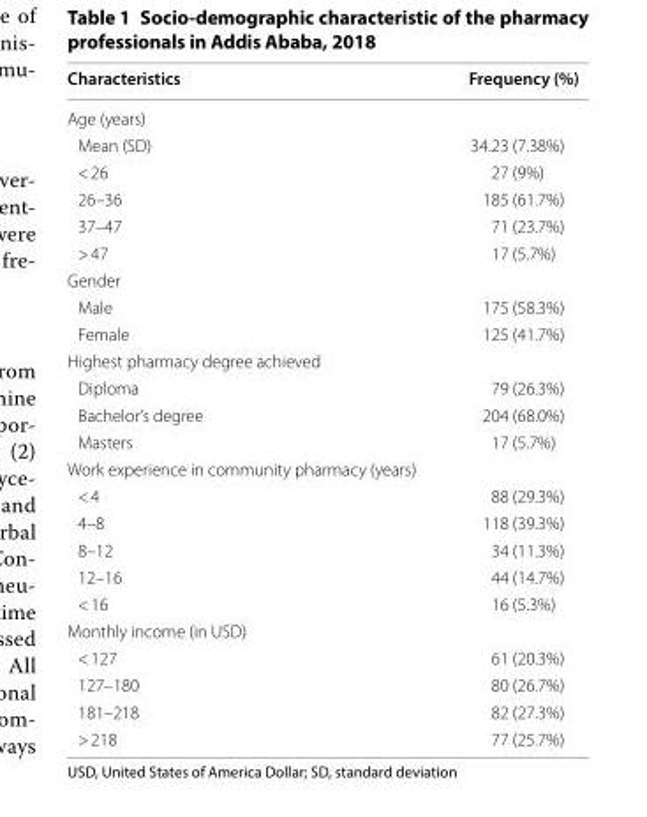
<table><thead><tr><td>Characteristics</td><td>Frequency (%)</td></tr></thead><tbody><tr><td colspan="2">Age (years)</td></tr><tr><td>Mean (SD)</td><td>34.23 (7.38%)</td></tr><tr><td>&lt; 26</td><td>27 (9%)</td></tr><tr><td>26–36</td><td>185 (61.7%)</td></tr><tr><td>37–47</td><td>71 (23.7%)</td></tr><tr><td>&gt; 47</td><td>17 (5.7%)</td></tr><tr><td colspan="2">Gender</td></tr><tr><td>Male</td><td>175 (58.3%)</td></tr><tr><td>Female</td><td>125 (41.7%)</td></tr><tr><td colspan="2">Highest pharmacy degree achieved</td></tr><tr><td>Diploma</td><td>79 (26.3%)</td></tr><tr><td>Bachelor’s degree</td><td>204 (68.0%)</td></tr><tr><td>Masters</td><td>17 (5.7%)</td></tr><tr><td colspan="2">Work experience in community pharmacy (years)</td></tr><tr><td>&lt; 4</td><td>88 (29.3%)</td></tr><tr><td>4–8</td><td>118 (39.3%)</td></tr><tr><td>8–12</td><td>34 (11.3%)</td></tr><tr><td>12–16</td><td>44 (14.7%)</td></tr><tr><td>&lt; 16</td><td>16 (5.3%)</td></tr><tr><td colspan="2">Monthly income (in USD)</td></tr><tr><td>&lt; 127</td><td>61 (20.3%)</td></tr><tr><td>127–180</td><td>80 (26.7%)</td></tr><tr><td>181–218</td><td>82 (27.3%)</td></tr><tr><td>&gt; 218</td><td>77 (25.7%)</td></tr></tbody></table>